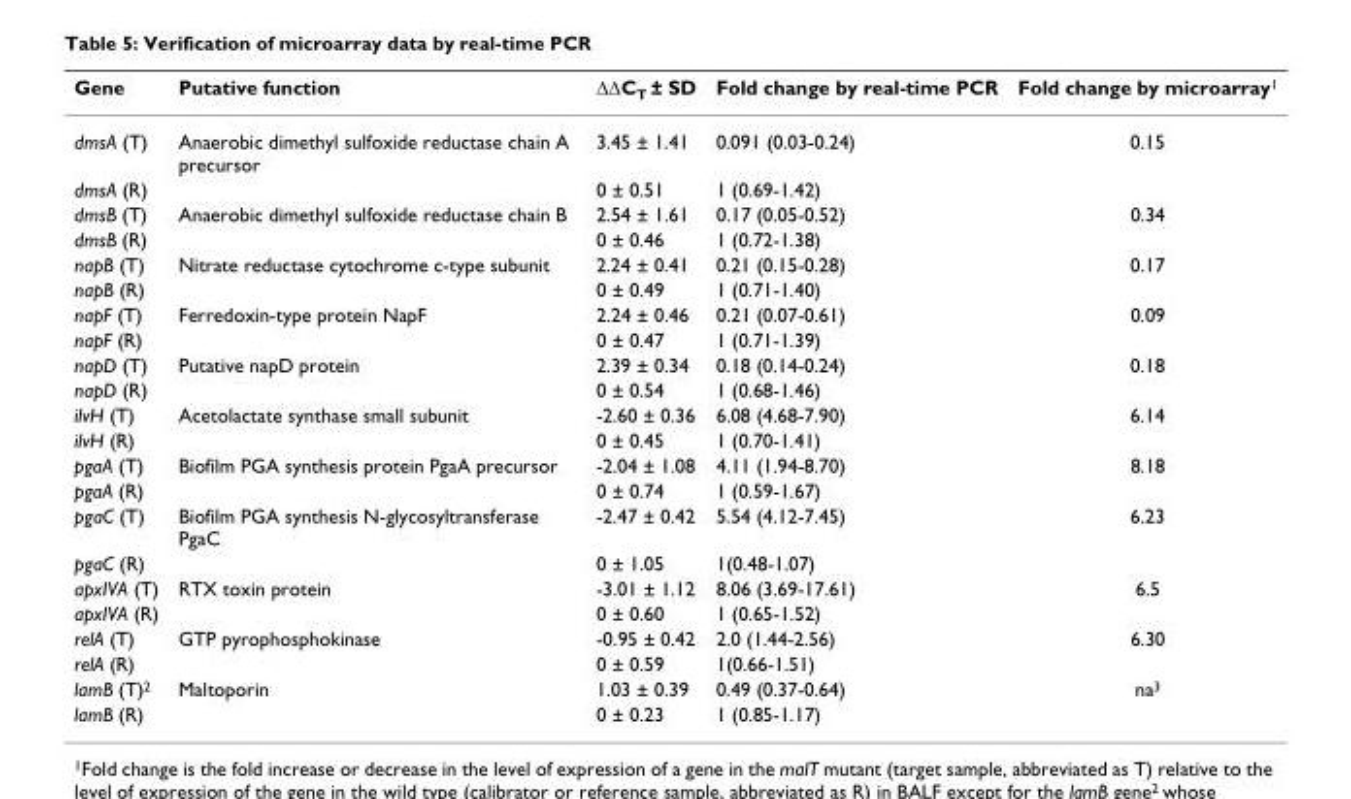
<table><thead><tr><td>Gene</td><td>Putative function</td><td>ΔΔC<sub>T</sub> ± SD</td><td>Fold change by real-time PCR</td><td>Fold change by microarray<sup>1</sup></td></tr></thead><tbody><tr><td>dmsA (T)</td><td>Anaerobic dimethyl sulfoxide reductase chain A precursor</td><td>3.45 ± 1.41</td><td>0.091 (0.03-0.24)</td><td>0.15</td></tr><tr><td>dmsA (R)</td><td></td><td>0 ± 0.51</td><td>1 (0.69-1.42)</td><td></td></tr><tr><td>dmsB (T)</td><td>Anaerobic dimethyl sulfoxide reductase chain B</td><td>2.54 ± 1.61</td><td>0.17 (0.05-0.52)</td><td>0.34</td></tr><tr><td>dmsB (R)</td><td></td><td>0 ± 0.46</td><td>1 (0.72-1.38)</td><td></td></tr><tr><td>napB (T)</td><td>Nitrate reductase cytochrome c-type subunit</td><td>2.24 ± 0.41</td><td>0.21 (0.15-0.28)</td><td>0.17</td></tr><tr><td>napB (R)</td><td></td><td>0 ± 0.49</td><td>1 (0.71-1.40)</td><td></td></tr><tr><td>napF (T)</td><td>Ferredoxin-type protein NapF</td><td>2.24 ± 0.46</td><td>0.21 (0.07-0.61)</td><td>0.09</td></tr><tr><td>napF (R)</td><td></td><td>0 ± 0.47</td><td>1 (0.71-1.39)</td><td></td></tr><tr><td>napD (T)</td><td>Putative napD protein</td><td>2.39 ± 0.34</td><td>0.18 (0.14-0.24)</td><td>0.18</td></tr><tr><td>napD (R)</td><td></td><td>0 ± 0.54</td><td>1 (0.68-1.46)</td><td></td></tr><tr><td>ilvH (T)</td><td>Acetolactate synthase small subunit</td><td>-2.60 ± 0.36</td><td>6.08 (4.68-7.90)</td><td>6.14</td></tr><tr><td>ilvH (R)</td><td></td><td>0 ± 0.45</td><td>1 (0.70-1.41)</td><td></td></tr><tr><td>pgaA (T)</td><td>Biofilm PGA synthesis protein PgaA precursor</td><td>-2.04 ± 1.08</td><td>4.11 (1.94-8.70)</td><td>8.18</td></tr><tr><td>pgaA (R)</td><td></td><td>0 ± 0.74</td><td>1 (0.59-1.67)</td><td></td></tr><tr><td>pgaC (T)</td><td>Biofilm PGA synthesis N-glycosyltransferase PgaC</td><td>-2.47 ± 0.42</td><td>5.54 (4.12-7.45)</td><td>6.23</td></tr><tr><td>pgaC (R)</td><td></td><td>0 ± 1.05</td><td>1(0.48-1.07)</td><td></td></tr><tr><td>apxIVA (T)</td><td>RTX toxin protein</td><td>-3.01 ± 1.12</td><td>8.06 (3.69-17.61)</td><td>6.5</td></tr><tr><td>apxIVA (R)</td><td></td><td>0 ± 0.60</td><td>1 (0.65-1.52)</td><td></td></tr><tr><td>relA (T)</td><td>GTP pyrophosphokinase</td><td>-0.95 ± 0.42</td><td>2.0 (1.44-2.56)</td><td>6.30</td></tr><tr><td>relA (R)</td><td></td><td>0 ± 0.59</td><td>1(0.66-1.51)</td><td></td></tr><tr><td>lamB (T)<sup>2</sup></td><td>Maltoporin</td><td>1.03 ± 0.39</td><td>0.49 (0.37-0.64)</td><td>na<sup>3</sup></td></tr><tr><td>lamB (R)</td><td></td><td>0 ± 0.23</td><td>1 (0.85-1.17)</td><td></td></tr></tbody></table>